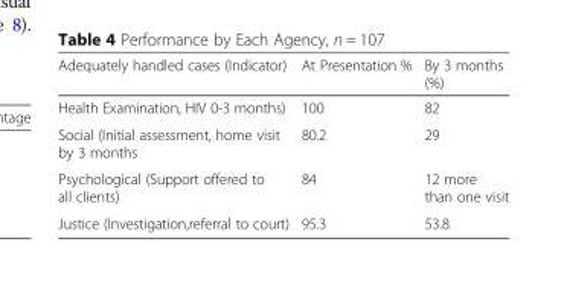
<table><thead><tr><td>Adequately handled cases (Indicator)</td><td>At Presentation %</td><td>By 3 months (%)</td></tr></thead><tbody><tr><td>Health Examination, HIV 0-3 months)</td><td>100</td><td>82</td></tr><tr><td>Social (Initial assessment, home visit by 3 months</td><td>80.2</td><td>29</td></tr><tr><td>Psychological (Support offered to all clients)</td><td>84</td><td>12 more than one visit</td></tr><tr><td>Justice (Investigation,referral to court)</td><td>95.3</td><td>53.8</td></tr></tbody></table>